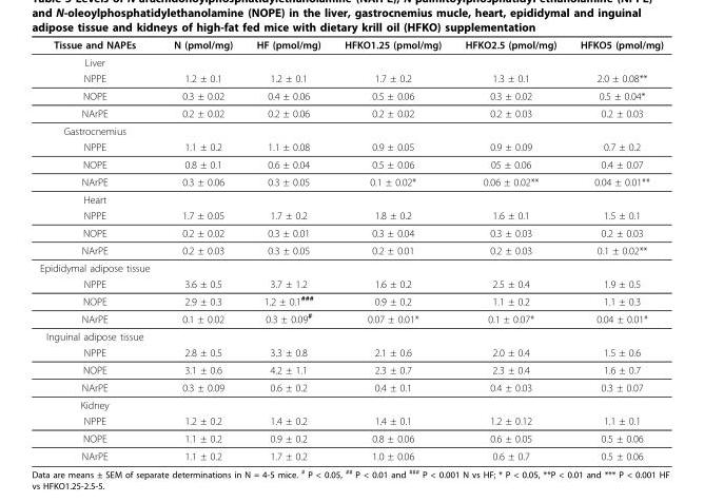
<table><thead><tr><td>Tissue and NAPEs</td><td>N (pmol/mg)</td><td>HF (pmol/mg)</td><td>HFKO1.25 (pmol/mg)</td><td>HFKO2.5 (pmol/mg)</td><td>HFKO5 (pmol/mg)</td></tr></thead><tbody><tr><td colspan="6">Liver</td></tr><tr><td>NPPE</td><td>1.2 ± 0.1</td><td>1.2 ± 0.1</td><td>1.7 ± 0.2</td><td>1.3 ± 0.1</td><td>2.0 ± 0.08**</td></tr><tr><td>NOPE</td><td>0.3 ± 0.02</td><td>0.4 ± 0.06</td><td>0.5 ± 0.06</td><td>0.3 ± 0.02</td><td>0.5 ± 0.04*</td></tr><tr><td>NArPE</td><td>0.2 ± 0.02</td><td>0.2 ± 0.06</td><td>0.2 ± 0.02</td><td>0.2 ± 0.03</td><td>0.2 ± 0.03</td></tr><tr><td colspan="6">Gastrocnemius</td></tr><tr><td>NPPE</td><td>1.1 ± 0.2</td><td>1.1 ± 0.08</td><td>0.9 ± 0.05</td><td>0.9 ± 0.09</td><td>0.7 ± 0.2</td></tr><tr><td>NOPE</td><td>0.8 ± 0.1</td><td>0.6 ± 0.04</td><td>0.5 ± 0.06</td><td>05 ± 0.06</td><td>0.4 ± 0.07</td></tr><tr><td>NArPE</td><td>0.3 ± 0.06</td><td>0.3 ± 0.05</td><td>0.1 ± 0.02*</td><td>0.06 ± 0.02**</td><td>0.04 ± 0.01**</td></tr><tr><td colspan="6">Heart</td></tr><tr><td>NPPE</td><td>1.7 ± 0.05</td><td>1.7 ± 0.2</td><td>1.8 ± 0.2</td><td>1.6 ± 0.1</td><td>1.5 ± 0.1</td></tr><tr><td>NOPE</td><td>0.2 ± 0.02</td><td>0.3 ± 0.01</td><td>0.3 ± 0.04</td><td>0.3 ± 0.03</td><td>0.2 ± 0.03</td></tr><tr><td>NArPE</td><td>0.2 ± 0.03</td><td>0.3 ± 0.05</td><td>0.2 ± 0.01</td><td>0.2 ± 0.03</td><td>0.1 ± 0.02**</td></tr><tr><td colspan="6">Epididymal adipose tissue</td></tr><tr><td>NPPE</td><td>3.6 ± 0.5</td><td>3.7 ± 1.2</td><td>1.6 ± 0.2</td><td>2.5 ± 0.4</td><td>1.9 ± 0.5</td></tr><tr><td>NOPE</td><td>2.9 ± 0.3</td><td>1.2 ± 0.1<sup>###</sup></td><td>0.9 ± 0.2</td><td>1.1 ± 0.2</td><td>1.1 ± 0.3</td></tr><tr><td>NArPE</td><td>0.1 ± 0.02</td><td>0.3 ± 0.09<sup>#</sup></td><td>0.07 ± 0.01*</td><td>0.1 ± 0.07*</td><td>0.04 ± 0.01*</td></tr><tr><td colspan="6">Inguinal adipose tissue</td></tr><tr><td>NPPE</td><td>2.8 ± 0.5</td><td>3.3 ± 0.8</td><td>2.1 ± 0.6</td><td>2.0 ± 0.4</td><td>1.5 ± 0.6</td></tr><tr><td>NOPE</td><td>3.1 ± 0.6</td><td>4.2 ± 1.1</td><td>2.3 ± 0.7</td><td>2.3 ± 0.4</td><td>1.6 ± 0.7</td></tr><tr><td>NArPE</td><td>0.3 ± 0.09</td><td>0.6 ± 0.2</td><td>0.4 ± 0.1</td><td>0.4 ± 0.03</td><td>0.3 ± 0.07</td></tr><tr><td colspan="6">Kidney</td></tr><tr><td>NPPE</td><td>1.2 ± 0.2</td><td>1.4 ± 0.2</td><td>1.4 ± 0.1</td><td>1.2 ± 0.12</td><td>1.1 ± 0.1</td></tr><tr><td>NOPE</td><td>1.1 ± 0.2</td><td>0.9 ± 0.2</td><td>0.8 ± 0.06</td><td>0.6 ± 0.05</td><td>0.5 ± 0.06</td></tr><tr><td>NArPE</td><td>1.1 ± 0.2</td><td>1.7 ± 0.2</td><td>1.0 ± 0.06</td><td>0.6 ± 0.7</td><td>0.5 ± 0.06</td></tr></tbody></table>